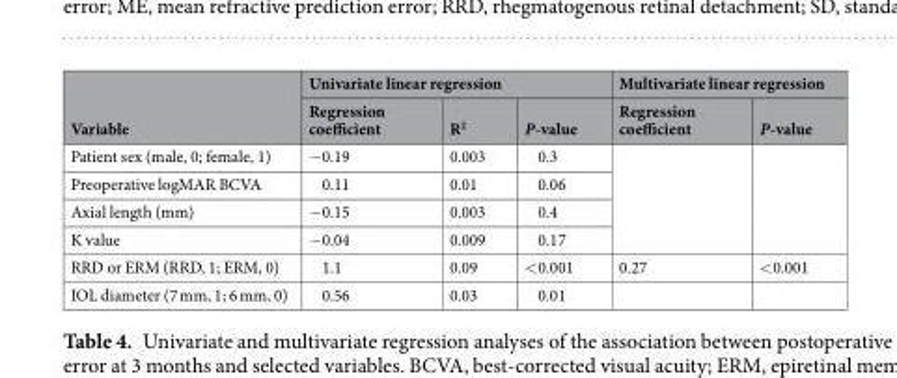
<table><thead><tr><td rowspan="2">Variable</td><td colspan="3">Univariate linear regression</td><td colspan="2">Multivariate linear regression</td></tr><tr><td>Regression coefficient</td><td>R<sup>2</sup></td><td>P-value</td><td>Regression coefficient</td><td>P-value</td></tr></thead><tbody><tr><td>Patient sex (male, 0; female, 1)</td><td>−0.19</td><td>0.003</td><td>0.3</td><td rowspan="4"></td><td rowspan="4"></td></tr><tr><td>Preoperative logMAR BCVA</td><td>0.11</td><td>0.01</td><td>0.06</td></tr><tr><td>Axial length (mm)</td><td>−0.15</td><td>0.003</td><td>0.4</td></tr><tr><td>K value</td><td>−0.04</td><td>0.009</td><td>0.17</td></tr><tr><td>RRD or ERM (RRD, 1; ERM, 0)</td><td>1.1</td><td>0.09</td><td>&lt;0.001</td><td>0.27</td><td>&lt;0.001</td></tr><tr><td>IOL diameter (7 mm, 1; 6 mm, 0)</td><td>0.56</td><td>0.03</td><td>0.01</td><td></td><td></td></tr></tbody></table>